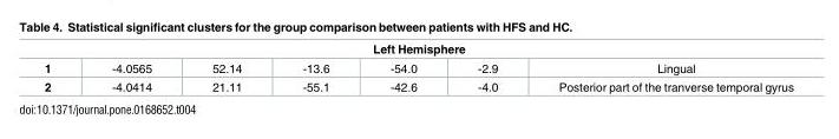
<table><thead><tr><td colspan="7">Left Hemisphere</td></tr><tr><td>1</td><td>-4.0565</td><td>52.14</td><td>-13.6</td><td>-54.0</td><td>-2.9</td><td>Lingual</td></tr></thead><tbody><tr><td>2</td><td>-4.0414</td><td>21.11</td><td>-55.1</td><td>-42.6</td><td>-4.0</td><td>Posterior part of the tranverse temporal gyrus</td></tr></tbody></table>